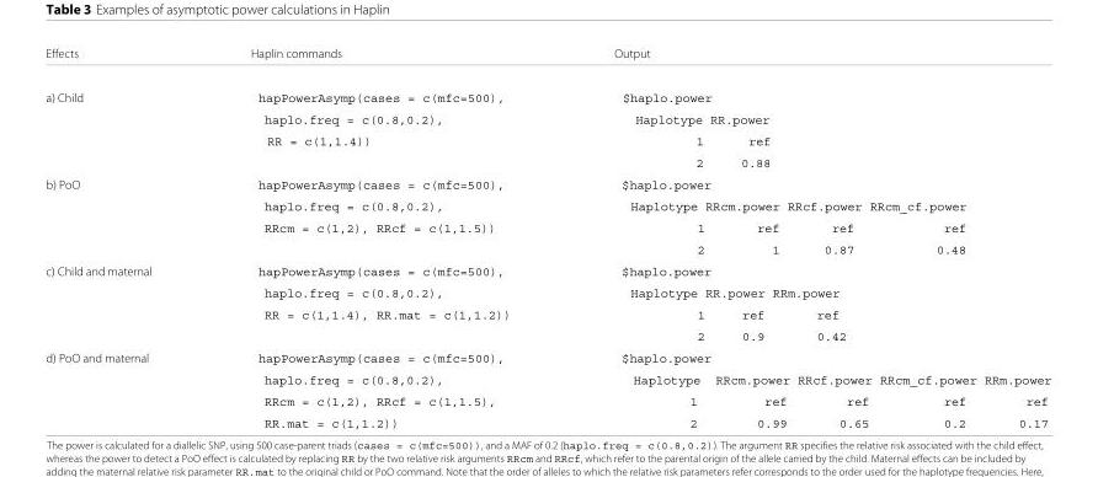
<table><thead><tr><td>Effects</td><td>Haplin commands</td><td>Output</td></tr></thead><tbody><tr><td rowspan="4">a) Child</td><td>hapPowerAsymp(cases = c(mfc=500),</td><td>$haplo.power</td></tr><tr><td>haplo.freq = c(0.8,0.2),</td><td>Haplotype RR.power</td></tr><tr><td>RR = c(1,1.4))</td><td>1 ref</td></tr><tr><td></td><td>2 0.88</td></tr><tr><td rowspan="4">b) PoO</td><td>hapPowerAsymp(cases = c(mfc=500),</td><td>$haplo.power</td></tr><tr><td>haplo.freq = c(0.8,0.2),</td><td>Haplotype RRcm.power RRcf.power RRcm_cf.power</td></tr><tr><td>RRcm = c(1,2), RRcf = c(1,1.5))</td><td>1 ref ref ref</td></tr><tr><td></td><td>2 1 0.87 0.48</td></tr><tr><td rowspan="4">c) Child and maternal</td><td>hapPowerAsymp(cases = c(mfc=500),</td><td>$haplo.power</td></tr><tr><td>haplo.freq = c(0.8,0.2),</td><td>Haplotype RR.power RRm.power</td></tr><tr><td>RR = c(1,1.4), RR.mat = c(1,1.2))</td><td>1 ref ref</td></tr><tr><td></td><td>2 0.9 0.42</td></tr><tr><td rowspan="4">d) PoO and maternal</td><td>hapPowerAsymp(cases = c(mfc=500),</td><td>$haplo.power</td></tr><tr><td>haplo.freq = c(0.8,0.2),</td><td>Haplotype RRcm.power RRcf.power RRcm_cf.power RRm.power</td></tr><tr><td>RRcm = c(1,2), RRcf = c(1,1.5),</td><td>1 ref ref ref ref</td></tr><tr><td>RR.mat = c(1,1.2))</td><td>2 0.99 0.65 0.2 0.17</td></tr></tbody></table>